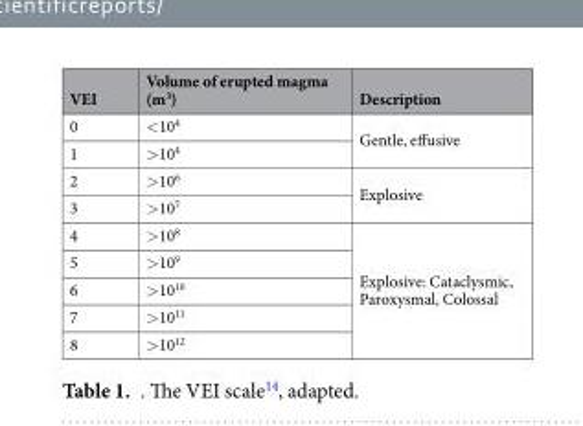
<table><thead><tr><td>VEI</td><td>Volume of erupted magma (m<sup>3</sup>)</td><td>Description</td></tr></thead><tbody><tr><td>0</td><td>&lt;10<sup>4</sup></td><td rowspan="2">Gentle, effusive</td></tr><tr><td>1</td><td>&gt;10<sup>4</sup></td></tr><tr><td>2</td><td>&gt;10<sup>6</sup></td><td rowspan="2">Explosive</td></tr><tr><td>3</td><td>&gt;10<sup>7</sup></td></tr><tr><td>4</td><td>&gt;10<sup>8</sup></td><td rowspan="5">Explosive: Cataclysmic, Paroxysmal, Colossal</td></tr><tr><td>5</td><td>&gt;10<sup>9</sup></td></tr><tr><td>6</td><td>&gt;10<sup>10</sup></td></tr><tr><td>7</td><td>&gt;10<sup>11</sup></td></tr><tr><td>8</td><td>&gt;10<sup>12</sup></td></tr></tbody></table>